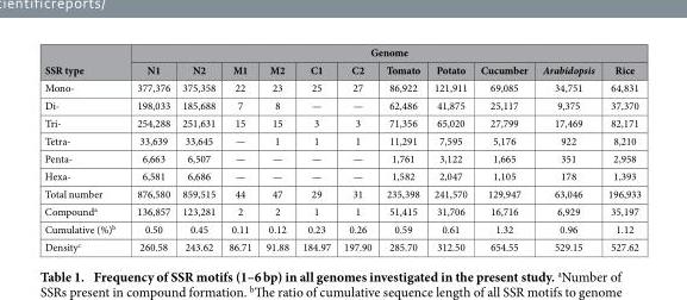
<table><thead><tr><td rowspan="2">SSR type</td><td colspan="11">Genome</td></tr><tr><td>N1</td><td>N2</td><td>M1</td><td>M2</td><td>C1</td><td>C2</td><td>Tomato</td><td>Potato</td><td>Cucumber</td><td>Arabidopsis</td><td>Rice</td></tr></thead><tbody><tr><td>Mono-</td><td>377,376</td><td>375,358</td><td>22</td><td>23</td><td>25</td><td>27</td><td>86,922</td><td>121,911</td><td>69,085</td><td>34,751</td><td>64,831</td></tr><tr><td>Di-</td><td>198,033</td><td>185,688</td><td>7</td><td>8</td><td>—</td><td>—</td><td>62,486</td><td>41,875</td><td>25,117</td><td>9,375</td><td>37,370</td></tr><tr><td>Tri-</td><td>254,288</td><td>251,631</td><td>15</td><td>15</td><td>3</td><td>3</td><td>71,356</td><td>65,020</td><td>27,799</td><td>17,469</td><td>82,171</td></tr><tr><td>Tetra-</td><td>33,639</td><td>33,645</td><td>—</td><td>1</td><td>1</td><td>1</td><td>11,291</td><td>7,595</td><td>5,176</td><td>922</td><td>8,210</td></tr><tr><td>Penta-</td><td>6,663</td><td>6,507</td><td>—</td><td>—</td><td>—</td><td>—</td><td>1,761</td><td>3,122</td><td>1,665</td><td>351</td><td>2,958</td></tr><tr><td>Hexa-</td><td>6,581</td><td>6,686</td><td>—</td><td>—</td><td>—</td><td>—</td><td>1,582</td><td>2,047</td><td>1,105</td><td>178</td><td>1,393</td></tr><tr><td>Total number</td><td>876,580</td><td>859,515</td><td>44</td><td>47</td><td>29</td><td>31</td><td>235,398</td><td>241,570</td><td>129,947</td><td>63,046</td><td>196,933</td></tr><tr><td>Compound<sup>a</sup></td><td>136,857</td><td>123,281</td><td>2</td><td>2</td><td>1</td><td>1</td><td>51,415</td><td>31,706</td><td>16,716</td><td>6,929</td><td>35,197</td></tr><tr><td>Cumulative (%)<sup>b</sup></td><td>0.50</td><td>0.45</td><td>0.11</td><td>0.12</td><td>0.23</td><td>0.26</td><td>0.59</td><td>0.61</td><td>1.32</td><td>0.96</td><td>1.12</td></tr><tr><td>Density<sup>c</sup></td><td>260.58</td><td>243.62</td><td>86.71</td><td>91.88</td><td>184.97</td><td>197.90</td><td>285.70</td><td>312.50</td><td>654.55</td><td>529.15</td><td>527.62</td></tr></tbody></table>